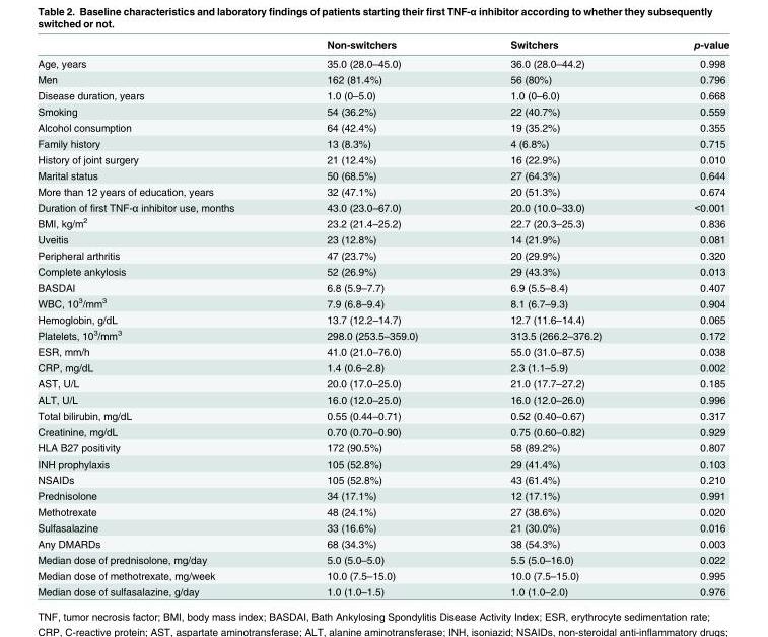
<table><thead><tr><td></td><td>Non-switchers</td><td>Switchers</td><td>p-value</td></tr></thead><tbody><tr><td>Age, years</td><td>35.0 (28.0–45.0)</td><td>36.0 (28.0–44.2)</td><td>0.998</td></tr><tr><td>Men</td><td>162 (81.4%)</td><td>56 (80%)</td><td>0.796</td></tr><tr><td>Disease duration, years</td><td>1.0 (0–5.0)</td><td>1.0 (0–6.0)</td><td>0.668</td></tr><tr><td>Smoking</td><td>54 (36.2%)</td><td>22 (40.7%)</td><td>0.559</td></tr><tr><td>Alcohol consumption</td><td>64 (42.4%)</td><td>19 (35.2%)</td><td>0.355</td></tr><tr><td>Family history</td><td>13 (8.3%)</td><td>4 (6.8%)</td><td>0.715</td></tr><tr><td>History of joint surgery</td><td>21 (12.4%)</td><td>16 (22.9%)</td><td>0.010</td></tr><tr><td>Marital status</td><td>50 (68.5%)</td><td>27 (64.3%)</td><td>0.644</td></tr><tr><td>More than 12 years of education, years</td><td>32 (47.1%)</td><td>20 (51.3%)</td><td>0.674</td></tr><tr><td>Duration of first TNF-α inhibitor use, months</td><td>43.0 (23.0–67.0)</td><td>20.0 (10.0–33.0)</td><td>&lt;0.001</td></tr><tr><td>BMI, kg/m<sup>2</sup></td><td>23.2 (21.4–25.2)</td><td>22.7 (20.3–25.3)</td><td>0.836</td></tr><tr><td>Uveitis</td><td>23 (12.8%)</td><td>14 (21.9%)</td><td>0.081</td></tr><tr><td>Peripheral arthritis</td><td>47 (23.7%)</td><td>20 (29.9%)</td><td>0.320</td></tr><tr><td>Complete ankylosis</td><td>52 (26.9%)</td><td>29 (43.3%)</td><td>0.013</td></tr><tr><td>BASDAI</td><td>6.8 (5.9–7.7)</td><td>6.9 (5.5–8.4)</td><td>0.407</td></tr><tr><td>WBC, 10<sup>3</sup>/mm<sup>3</sup></td><td>7.9 (6.8–9.4)</td><td>8.1 (6.7–9.3)</td><td>0.904</td></tr><tr><td>Hemoglobin, g/dL</td><td>13.7 (12.2–14.7)</td><td>12.7 (11.6–14.4)</td><td>0.065</td></tr><tr><td>Platelets, 10<sup>3</sup>/mm<sup>3</sup></td><td>298.0 (253.5–359.0)</td><td>313.5 (266.2–376.2)</td><td>0.172</td></tr><tr><td>ESR, mm/h</td><td>41.0 (21.0–76.0)</td><td>55.0 (31.0–87.5)</td><td>0.038</td></tr><tr><td>CRP, mg/dL</td><td>1.4 (0.6–2.8)</td><td>2.3 (1.1–5.9)</td><td>0.002</td></tr><tr><td>AST, U/L</td><td>20.0 (17.0–25.0)</td><td>21.0 (17.7–27.2)</td><td>0.185</td></tr><tr><td>ALT, U/L</td><td>16.0 (12.0–25.0)</td><td>16.0 (12.0–26.0)</td><td>0.996</td></tr><tr><td>Total bilirubin, mg/dL</td><td>0.55 (0.44–0.71)</td><td>0.52 (0.40–0.67)</td><td>0.317</td></tr><tr><td>Creatinine, mg/dL</td><td>0.70 (0.70–0.90)</td><td>0.75 (0.60–0.82)</td><td>0.929</td></tr><tr><td>HLA B27 positivity</td><td>172 (90.5%)</td><td>58 (89.2%)</td><td>0.807</td></tr><tr><td>INH prophylaxis</td><td>105 (52.8%)</td><td>29 (41.4%)</td><td>0.103</td></tr><tr><td>NSAIDs</td><td>105 (52.8%)</td><td>43 (61.4%)</td><td>0.210</td></tr><tr><td>Prednisolone</td><td>34 (17.1%)</td><td>12 (17.1%)</td><td>0.991</td></tr><tr><td>Methotrexate</td><td>48 (24.1%)</td><td>27 (38.6%)</td><td>0.020</td></tr><tr><td>Sulfasalazine</td><td>33 (16.6%)</td><td>21 (30.0%)</td><td>0.016</td></tr><tr><td>Any DMARDs</td><td>68 (34.3%)</td><td>38 (54.3%)</td><td>0.003</td></tr><tr><td>Median dose of prednisolone, mg/day</td><td>5.0 (5.0–5.0)</td><td>5.5 (5.0–16.0)</td><td>0.022</td></tr><tr><td>Median dose of methotrexate, mg/week</td><td>10.0 (7.5–15.0)</td><td>10.0 (7.5–15.0)</td><td>0.995</td></tr><tr><td>Median dose of sulfasalazine, g/day</td><td>1.0 (1.0–1.5)</td><td>1.0 (1.0–2.0)</td><td>0.976</td></tr></tbody></table>